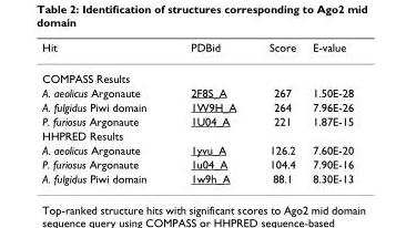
<table><thead><tr><td>Hit</td><td>PDBid</td><td>Score</td><td>E-value</td></tr></thead><tbody><tr><td colspan="4">COMPASS Results</td></tr><tr><td>A. aeolicus Argonaute</td><td>2F8S_A</td><td>267</td><td>1.50E-28</td></tr><tr><td>A. fulgidus Piwi domain</td><td>1W9H_A</td><td>264</td><td>7.96E-26</td></tr><tr><td>P. furiosus Argonaute</td><td>1U04_A</td><td>221</td><td>1.87E-15</td></tr><tr><td colspan="4">HHPRED Results</td></tr><tr><td>A. aeolicus Argonaute</td><td>1yvu_A</td><td>126.2</td><td>7.60E-20</td></tr><tr><td>P. furiosus Argonaute</td><td>1u04_A</td><td>104.4</td><td>7.90E-16</td></tr><tr><td>A. fulgidus Piwi domain</td><td>1w9h_A</td><td>88.1</td><td>8.30E-13</td></tr></tbody></table>